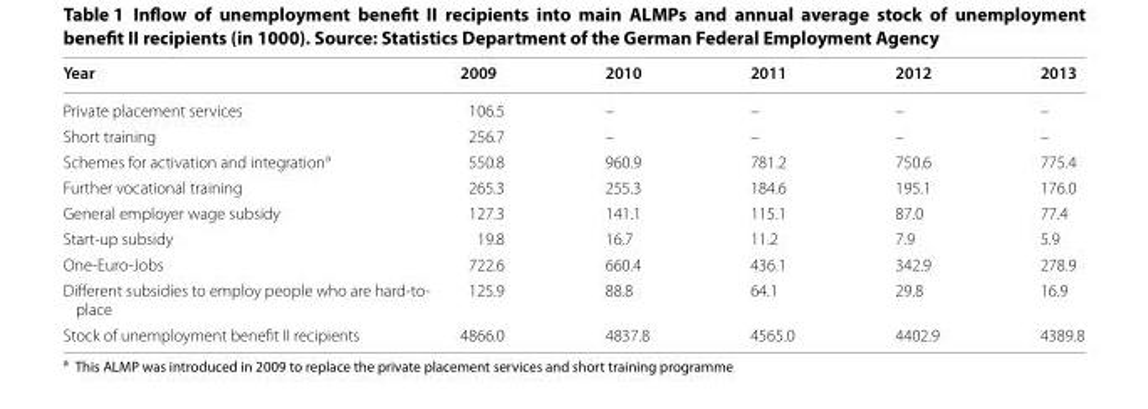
<table><thead><tr><td>Year</td><td>2009</td><td>2010</td><td>2011</td><td>2012</td><td>2013</td></tr></thead><tbody><tr><td>Private placement services</td><td>106.5</td><td>–</td><td>–</td><td>–</td><td>–</td></tr><tr><td>Short training</td><td>256.7</td><td>–</td><td>–</td><td>–</td><td>–</td></tr><tr><td>Schemes for activation and integration<sup>a</sup></td><td>550.8</td><td>960.9</td><td>781.2</td><td>750.6</td><td>775.4</td></tr><tr><td>Further vocational training</td><td>265.3</td><td>255.3</td><td>184.6</td><td>195.1</td><td>176.0</td></tr><tr><td>General employer wage subsidy</td><td>127.3</td><td>141.1</td><td>115.1</td><td>87.0</td><td>77.4</td></tr><tr><td>Start-up subsidy</td><td>19.8</td><td>16.7</td><td>11.2</td><td>7.9</td><td>5.9</td></tr><tr><td>One-Euro-Jobs</td><td>722.6</td><td>660.4</td><td>436.1</td><td>342.9</td><td>278.9</td></tr><tr><td>Different subsidies to employ people who are hard-to- place</td><td>125.9</td><td>88.8</td><td>64.1</td><td>29.8</td><td>16.9</td></tr><tr><td>Stock of unemployment benefit II recipients</td><td>4866.0</td><td>4837.8</td><td>4565.0</td><td>4402.9</td><td>4389.8</td></tr></tbody></table>